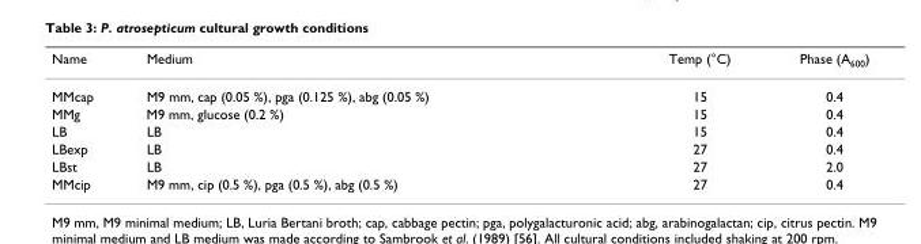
<table><thead><tr><td>Name</td><td>Medium</td><td>Temp (°C)</td><td>Phase (A<sub>600</sub>)</td></tr></thead><tbody><tr><td>MMcap</td><td>M9 mm, cap (0.05 %), pga (0.125 %), abg (0.05 %)</td><td>15</td><td>0.4</td></tr><tr><td>MMg</td><td>M9 mm, glucose (0.2 %)</td><td>15</td><td>0.4</td></tr><tr><td>LB</td><td>LB</td><td>15</td><td>0.4</td></tr><tr><td>LBexp</td><td>LB</td><td>27</td><td>0.4</td></tr><tr><td>LBst</td><td>LB</td><td>27</td><td>2.0</td></tr><tr><td>MMcip</td><td>M9 mm, cip (0.5 %), pga (0.5 %), abg (0.5 %)</td><td>27</td><td>0.4</td></tr></tbody></table>